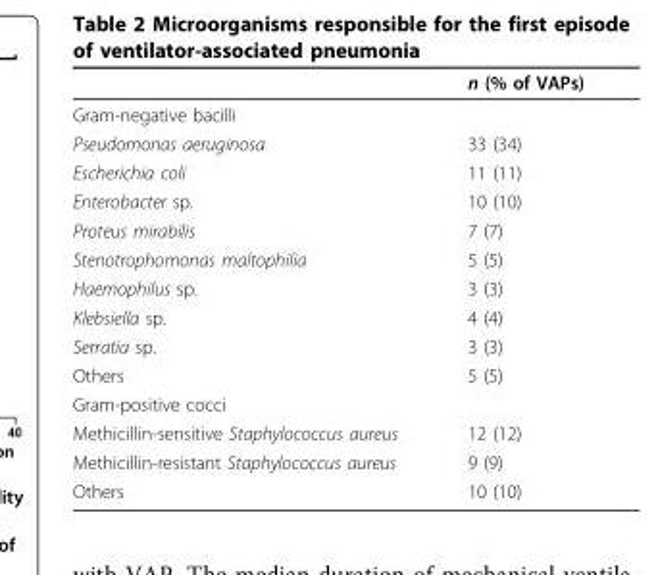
<table><thead><tr><td></td><td>n (% of VAPs)</td></tr></thead><tbody><tr><td colspan="2">Gram-negative bacilli</td></tr><tr><td>Pseudomonas aeruginosa</td><td>33 (34)</td></tr><tr><td>Escherichia coli</td><td>11 (11)</td></tr><tr><td>Enterobacter sp.</td><td>10 (10)</td></tr><tr><td>Proteus mirabilis</td><td>7 (7)</td></tr><tr><td>Stenotrophomonas maltophilia</td><td>5 (5)</td></tr><tr><td>Haemophilus sp.</td><td>3 (3)</td></tr><tr><td>Klebsiella sp.</td><td>4 (4)</td></tr><tr><td>Serratia sp.</td><td>3 (3)</td></tr><tr><td>Others</td><td>5 (5)</td></tr><tr><td colspan="2">Gram-positive cocci</td></tr><tr><td>Methicillin-sensitive Staphylococcus aureus</td><td>12 (12)</td></tr><tr><td>Methicillin-resistant Staphylococcus aureus</td><td>9 (9)</td></tr><tr><td>Others</td><td>10 (10)</td></tr></tbody></table>